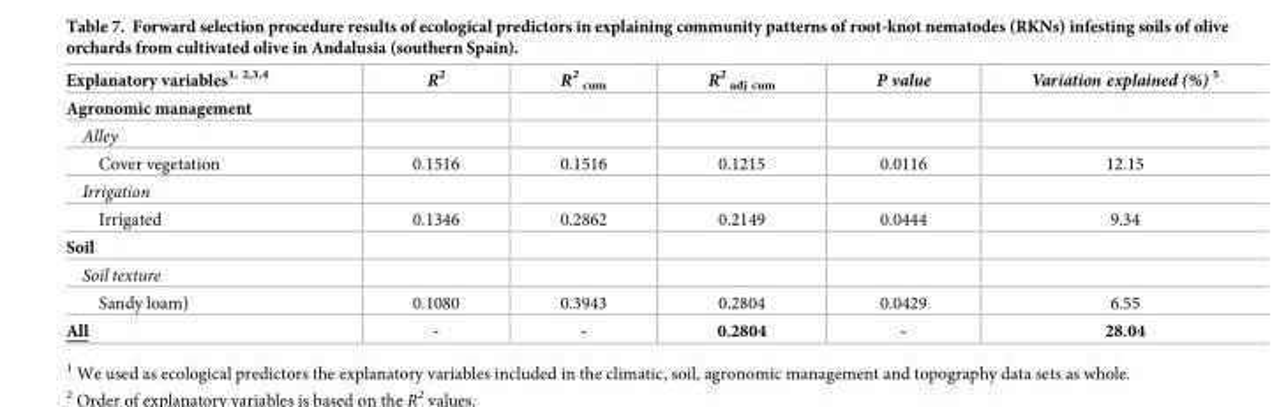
<table><thead><tr><td>Explanatory variables<sup>1, 2,3,4</sup></td><td>R<sup>2</sup></td><td>R<sup>2</sup> <sub>cum</sub></td><td>R<sup>2</sup> <sub>adj cum</sub></td><td>P value</td><td>Variation explained (%) <sup>5</sup></td></tr></thead><tbody><tr><td colspan="6">Agronomic management</td></tr><tr><td colspan="6">Alley</td></tr><tr><td>Cover vegetation</td><td>0.1516</td><td>0.1516</td><td>0.1215</td><td>0.0116</td><td>12.15</td></tr><tr><td colspan="6">Irrigation</td></tr><tr><td>Irrigated</td><td>0.1346</td><td>0.2862</td><td>0.2149</td><td>0.0444</td><td>9.34</td></tr><tr><td colspan="6">Soil</td></tr><tr><td colspan="6">Soil texture</td></tr><tr><td>Sandy loam)</td><td>0.1080</td><td>0.3943</td><td>0.2804</td><td>0.0429</td><td>6.55</td></tr><tr><td>All</td><td>-</td><td>-</td><td>0.2804</td><td>-</td><td>28.04</td></tr></tbody></table>